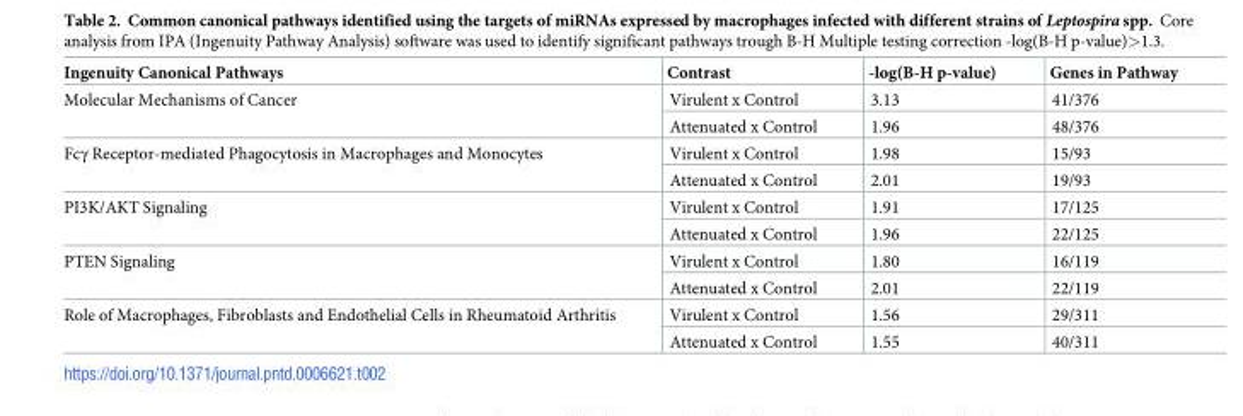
<table><thead><tr><td>Ingenuity Canonical Pathways</td><td>Contrast</td><td>-log(B-H p-value)</td><td>Genes in Pathway</td></tr></thead><tbody><tr><td rowspan="2">Molecular Mechanisms of Cancer</td><td>Virulent x Control</td><td>3.13</td><td>41/376</td></tr><tr><td>Attenuated x Control</td><td>1.96</td><td>48/376</td></tr><tr><td rowspan="2">Fcγ Receptor-mediated Phagocytosis in Macrophages and Monocytes</td><td>Virulent x Control</td><td>1.98</td><td>15/93</td></tr><tr><td>Attenuated x Control</td><td>2.01</td><td>19/93</td></tr><tr><td rowspan="2">PI3K/AKT Signaling</td><td>Virulent x Control</td><td>1.91</td><td>17/125</td></tr><tr><td>Attenuated x Control</td><td>1.96</td><td>22/125</td></tr><tr><td rowspan="2">PTEN Signaling</td><td>Virulent x Control</td><td>1.80</td><td>16/119</td></tr><tr><td>Attenuated x Control</td><td>2.01</td><td>22/119</td></tr><tr><td rowspan="2">Role of Macrophages, Fibroblasts and Endothelial Cells in Rheumatoid Arthritis</td><td>Virulent x Control</td><td>1.56</td><td>29/311</td></tr><tr><td>Attenuated x Control</td><td>1.55</td><td>40/311</td></tr></tbody></table>